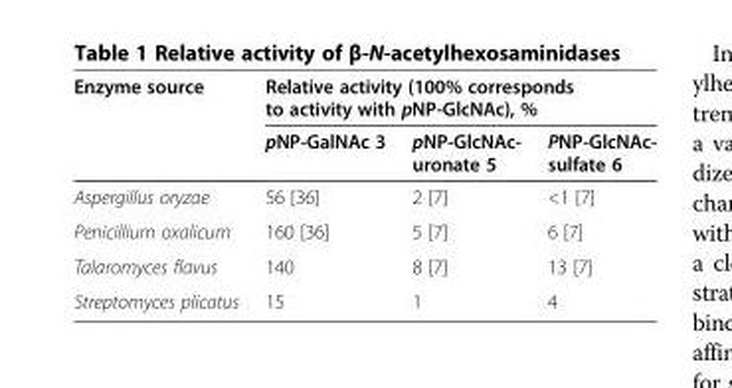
<table><thead><tr><td rowspan="2">Enzyme source</td><td colspan="3">Relative activity (100% corresponds to activity with pNP-GlcNAc), %</td></tr><tr><td>pNP-GalNAc 3</td><td>pNP-GlcNAc- uronate 5</td><td>PNP-GlcNAc- sulfate 6</td></tr></thead><tbody><tr><td>Aspergillus oryzae</td><td>56 [36]</td><td>2 [7]</td><td>&lt;1 [7]</td></tr><tr><td>Penicillium oxalicum</td><td>160 [36]</td><td>5 [7]</td><td>6 [7]</td></tr><tr><td>Talaromyces flavus</td><td>140</td><td>8 [7]</td><td>13 [7]</td></tr><tr><td>Streptomyces plicatus</td><td>15</td><td>1</td><td>4</td></tr></tbody></table>